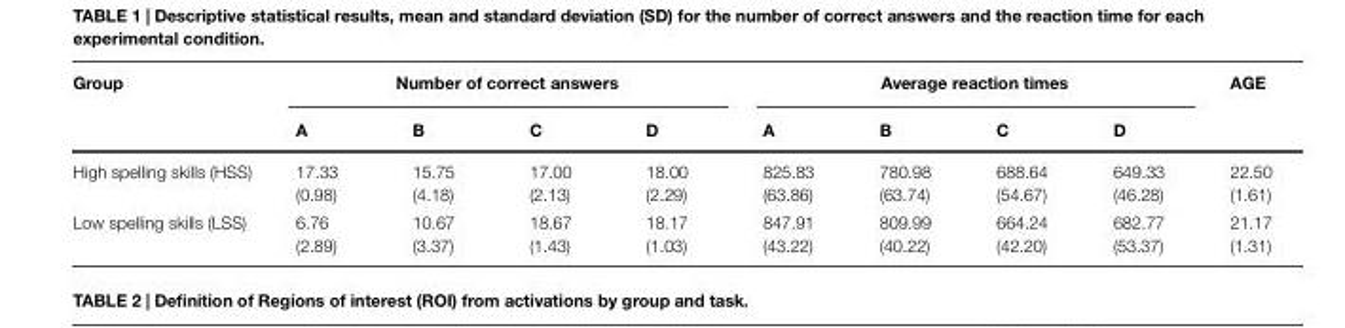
<table><thead><tr><td rowspan="2">Group</td><td colspan="4">Number of correct answers</td><td colspan="4">Average reaction times</td><td rowspan="2">AGE</td></tr><tr><td>A</td><td>B</td><td>C</td><td>D</td><td>A</td><td>B</td><td>C</td><td>D</td></tr></thead><tbody><tr><td>High spelling skills (HSS)</td><td>17.33 (0.98)</td><td>15.75 (4.18)</td><td>17.00 (2.13)</td><td>18.00 (2.29)</td><td>825.83 (63.86)</td><td>780.98 (63.74)</td><td>688.64 (54.67)</td><td>649.33 (46.28)</td><td>22.50 (1.61)</td></tr><tr><td>Low spelling skills (LSS)</td><td>6.76 (2.89)</td><td>10.67 (3.37)</td><td>18.67 (1.43)</td><td>18.17 (1.03)</td><td>847.91 (43.22)</td><td>809.99 (40.22)</td><td>664.24 (42.20)</td><td>682.77 (53.37)</td><td>21.17 (1.31)</td></tr></tbody></table>